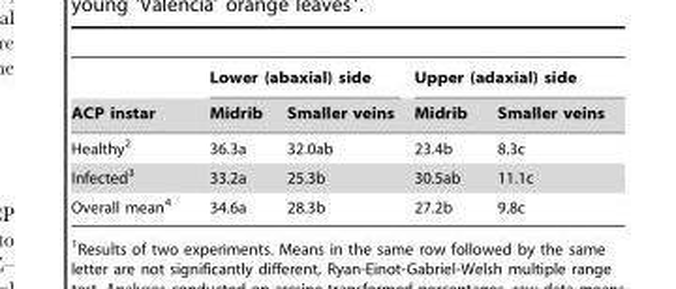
<table><thead><tr><td rowspan="2">ACP instar</td><td colspan="2">Lower (abaxial) side</td><td colspan="2">Upper (adaxial) side</td></tr><tr><td>Midrib</td><td>Smaller veins</td><td>Midrib</td><td>Smaller veins</td></tr></thead><tbody><tr><td>Healthy<sup>2</sup></td><td>36.3a</td><td>32.0ab</td><td>23.4b</td><td>8.3c</td></tr><tr><td>Infected<sup>3</sup></td><td>33.2a</td><td>25.3b</td><td>30.5ab</td><td>11.1c</td></tr><tr><td>Overall mean<sup>4</sup></td><td>34.6a</td><td>28.3b</td><td>27.2b</td><td>9.8c</td></tr></tbody></table>